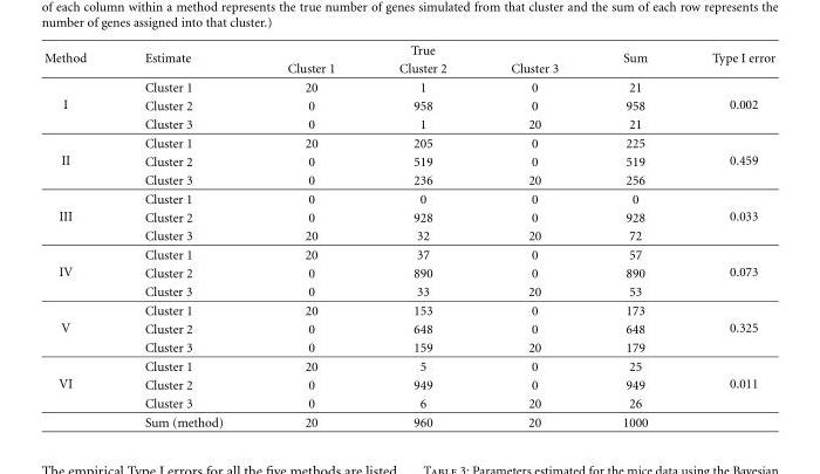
<table><thead><tr><td rowspan="2">Method</td><td rowspan="2">Estimate</td><td colspan="3">True</td><td rowspan="2">Sum</td><td rowspan="2">Type I error</td></tr><tr><td>Cluster 1</td><td>Cluster 2</td><td>Cluster 3</td></tr></thead><tbody><tr><td rowspan="3">I</td><td>Cluster 1</td><td>20</td><td>1</td><td>0</td><td>21</td><td rowspan="3">0.002</td></tr><tr><td>Cluster 2</td><td>0</td><td>958</td><td>0</td><td>958</td></tr><tr><td>Cluster 3</td><td>0</td><td>1</td><td>20</td><td>21</td></tr><tr><td rowspan="3">II</td><td>Cluster 1</td><td>20</td><td>205</td><td>0</td><td>225</td><td rowspan="3">0.459</td></tr><tr><td>Cluster 2</td><td>0</td><td>519</td><td>0</td><td>519</td></tr><tr><td>Cluster 3</td><td>0</td><td>236</td><td>20</td><td>256</td></tr><tr><td rowspan="3">III</td><td>Cluster 1</td><td>0</td><td>0</td><td>0</td><td>0</td><td rowspan="3">0.033</td></tr><tr><td>Cluster 2</td><td>0</td><td>928</td><td>0</td><td>928</td></tr><tr><td>Cluster 3</td><td>20</td><td>32</td><td>20</td><td>72</td></tr><tr><td rowspan="3">IV</td><td>Cluster 1</td><td>20</td><td>37</td><td>0</td><td>57</td><td rowspan="3">0.073</td></tr><tr><td>Cluster 2</td><td>0</td><td>890</td><td>0</td><td>890</td></tr><tr><td>Cluster 3</td><td>0</td><td>33</td><td>20</td><td>53</td></tr><tr><td rowspan="3">V</td><td>Cluster 1</td><td>20</td><td>153</td><td>0</td><td>173</td><td rowspan="3">0.325</td></tr><tr><td>Cluster 2</td><td>0</td><td>648</td><td>0</td><td>648</td></tr><tr><td>Cluster 3</td><td>0</td><td>159</td><td>20</td><td>179</td></tr><tr><td rowspan="4">VI</td><td>Cluster 1</td><td>20</td><td>5</td><td>0</td><td>25</td><td rowspan="3">0.011</td></tr><tr><td>Cluster 2</td><td>0</td><td>949</td><td>0</td><td>949</td></tr><tr><td>Cluster 3</td><td>0</td><td>6</td><td>20</td><td>26</td></tr><tr><td>Sum (method)</td><td>20</td><td>960</td><td>20</td><td>1000</td><td></td></tr></tbody></table>